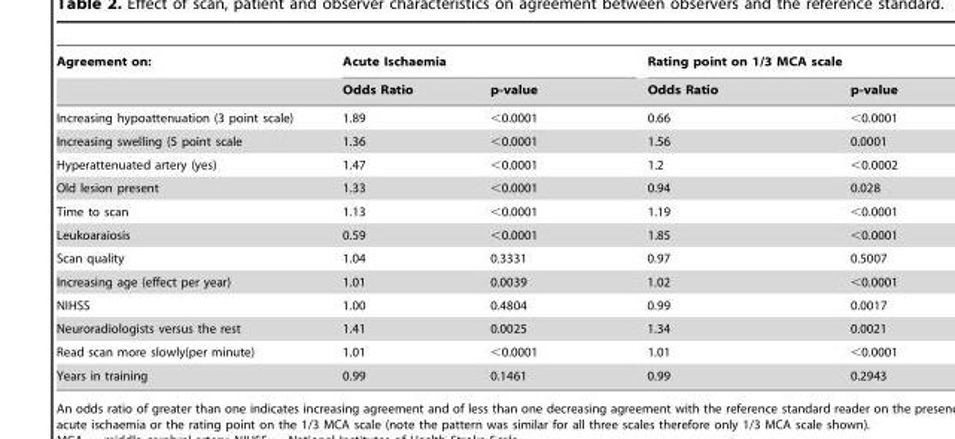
<table><thead><tr><td rowspan="2">Agreement on:</td><td colspan="2">Acute Ischaemia</td><td colspan="2">Rating point on 1/3 MCA scale</td></tr><tr><td>Odds Ratio</td><td>p-value</td><td>Odds Ratio</td><td>p-value</td></tr></thead><tbody><tr><td>Increasing hypoattenuation (3 point scale)</td><td>1.89</td><td>&lt;0.0001</td><td>0.66</td><td>&lt;0.0001</td></tr><tr><td>Increasing swelling (5 point scale</td><td>1.36</td><td>&lt;0.0001</td><td>1.56</td><td>0.0001</td></tr><tr><td>Hyperattenuated artery (yes)</td><td>1.47</td><td>&lt;0.0001</td><td>1.2</td><td>&lt;0.0002</td></tr><tr><td>Old lesion present</td><td>1.33</td><td>&lt;0.0001</td><td>0.94</td><td>0.028</td></tr><tr><td>Time to scan</td><td>1.13</td><td>&lt;0.0001</td><td>1.19</td><td>&lt;0.0001</td></tr><tr><td>Leukoaraiosis</td><td>0.59</td><td>&lt;0.0001</td><td>1.85</td><td>&lt;0.0001</td></tr><tr><td>Scan quality</td><td>1.04</td><td>0.3331</td><td>0.97</td><td>0.5007</td></tr><tr><td>Increasing age (effect per year)</td><td>1.01</td><td>0.0039</td><td>1.02</td><td>&lt;0.0001</td></tr><tr><td>NIHSS</td><td>1.00</td><td>0.4804</td><td>0.99</td><td>0.0017</td></tr><tr><td>Neuroradiologists versus the rest</td><td>1.41</td><td>0.0025</td><td>1.34</td><td>0.0021</td></tr><tr><td>Read scan more slowly(per minute)</td><td>1.01</td><td>&lt;0.0001</td><td>1.01</td><td>&lt;0.0001</td></tr><tr><td>Years in training</td><td>0.99</td><td>0.1461</td><td>0.99</td><td>0.2943</td></tr></tbody></table>